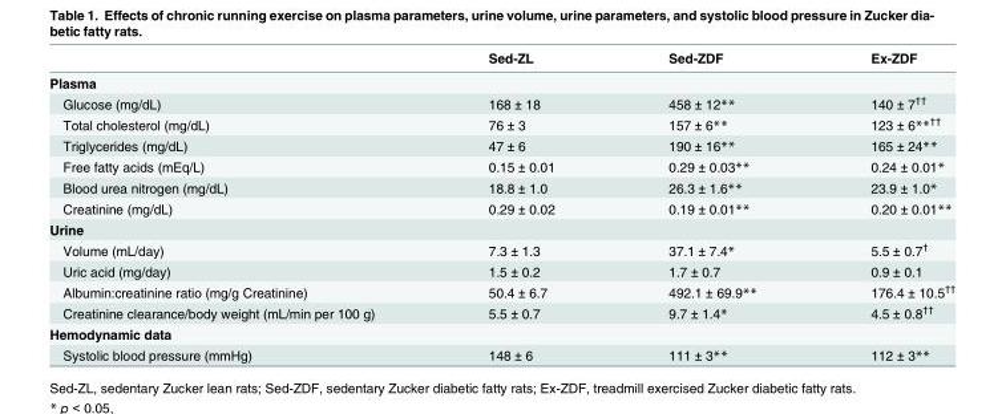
<table><thead><tr><td></td><td>Sed-ZL</td><td>Sed-ZDF</td><td>Ex-ZDF</td></tr></thead><tbody><tr><td colspan="4">Plasma</td></tr><tr><td>Glucose (mg/dL)</td><td>168 ± 18</td><td>458 ± 12**</td><td>140 ± 7<sup>††</sup></td></tr><tr><td>Total cholesterol (mg/dL)</td><td>76 ± 3</td><td>157 ± 6**</td><td>123 ± 6**<sup>††</sup></td></tr><tr><td>Triglycerides (mg/dL)</td><td>47 ± 6</td><td>190 ± 16**</td><td>165 ± 24**</td></tr><tr><td>Free fatty acids (mEq/L)</td><td>0.15 ± 0.01</td><td>0.29 ± 0.03**</td><td>0.24 ± 0.01*</td></tr><tr><td>Blood urea nitrogen (mg/dL)</td><td>18.8 ± 1.0</td><td>26.3 ± 1.6**</td><td>23.9 ± 1.0*</td></tr><tr><td>Creatinine (mg/dL)</td><td>0.29 ± 0.02</td><td>0.19 ± 0.01**</td><td>0.20 ± 0.01**</td></tr><tr><td colspan="4">Urine</td></tr><tr><td>Volume (mL/day)</td><td>7.3 ± 1.3</td><td>37.1 ± 7.4*</td><td>5.5 ± 0.7<sup>†</sup></td></tr><tr><td>Uric acid (mg/day)</td><td>1.5 ± 0.2</td><td>1.7 ± 0.7</td><td>0.9 ± 0.1</td></tr><tr><td>Albumin:creatinine ratio (mg/g Creatinine)</td><td>50.4 ± 6.7</td><td>492.1 ± 69.9**</td><td>176.4 ± 10.5<sup>††</sup></td></tr><tr><td>Creatinine clearance/body weight (mL/min per 100 g)</td><td>5.5 ± 0.7</td><td>9.7 ± 1.4*</td><td>4.5 ± 0.8<sup>††</sup></td></tr><tr><td colspan="4">Hemodynamic data</td></tr><tr><td>Systolic blood pressure (mmHg)</td><td>148 ± 6</td><td>111 ± 3**</td><td>112 ± 3**</td></tr></tbody></table>